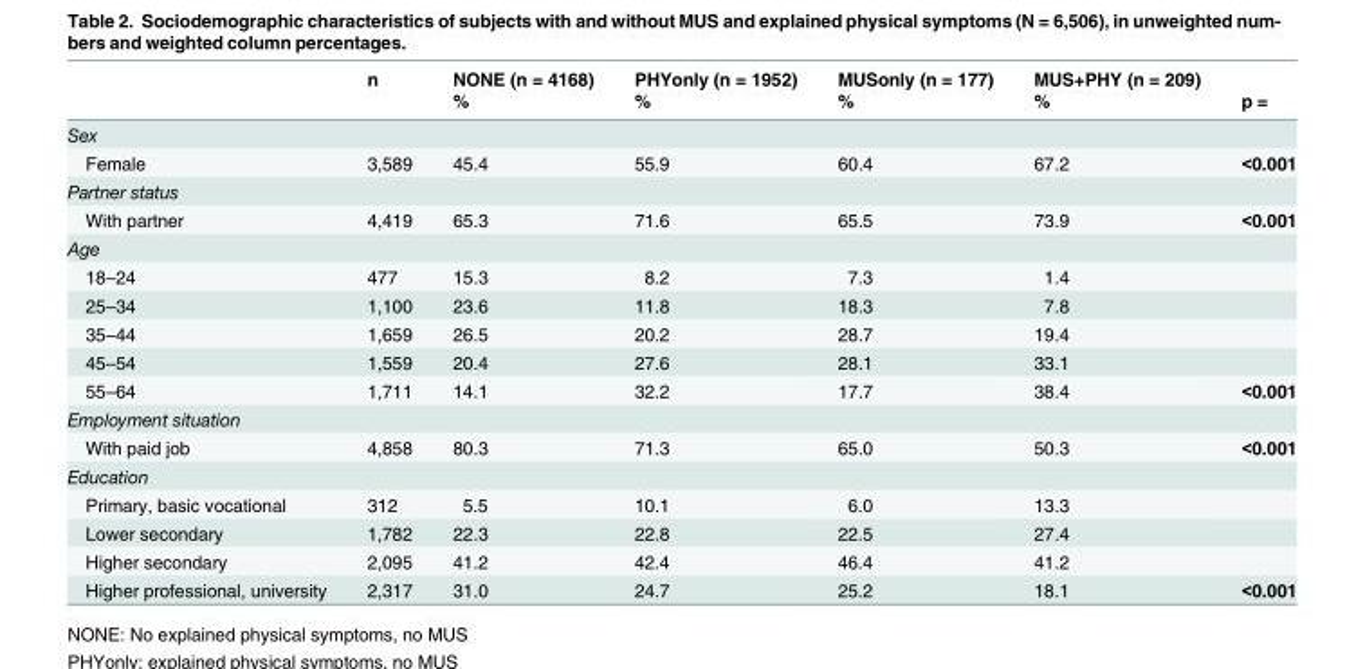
<table><thead><tr><td rowspan="2"></td><td rowspan="2">n</td><td rowspan="2">NONE (n = 4168) %</td><td rowspan="2">PHYonly (n = 1952) %</td><td rowspan="2">MUSonly (n = 177) %</td><td rowspan="2">MUS+PHY (n = 209) %</td><td rowspan="2">p =</td></tr><tr></tr></thead><tbody><tr><td colspan="7">Sex</td></tr><tr><td>Female</td><td>3,589</td><td>45.4</td><td>55.9</td><td>60.4</td><td>67.2</td><td>&lt;0.001</td></tr><tr><td colspan="7">Partner status</td></tr><tr><td>With partner</td><td>4,419</td><td>65.3</td><td>71.6</td><td>65.5</td><td>73.9</td><td>&lt;0.001</td></tr><tr><td colspan="7">Age</td></tr><tr><td>18–24</td><td>477</td><td>15.3</td><td>8.2</td><td>7.3</td><td>1.4</td><td></td></tr><tr><td>25–34</td><td>1,100</td><td>23.6</td><td>11.8</td><td>18.3</td><td>7.8</td><td></td></tr><tr><td>35–44</td><td>1,659</td><td>26.5</td><td>20.2</td><td>28.7</td><td>19.4</td><td></td></tr><tr><td>45–54</td><td>1,559</td><td>20.4</td><td>27.6</td><td>28.1</td><td>33.1</td><td></td></tr><tr><td>55–64</td><td>1,711</td><td>14.1</td><td>32.2</td><td>17.7</td><td>38.4</td><td>&lt;0.001</td></tr><tr><td colspan="7">Employment situation</td></tr><tr><td>With paid job</td><td>4,858</td><td>80.3</td><td>71.3</td><td>65.0</td><td>50.3</td><td>&lt;0.001</td></tr><tr><td colspan="7">Education</td></tr><tr><td>Primary, basic vocational</td><td>312</td><td>5.5</td><td>10.1</td><td>6.0</td><td>13.3</td><td></td></tr><tr><td>Lower secondary</td><td>1,782</td><td>22.3</td><td>22.8</td><td>22.5</td><td>27.4</td><td></td></tr><tr><td>Higher secondary</td><td>2,095</td><td>41.2</td><td>42.4</td><td>46.4</td><td>41.2</td><td></td></tr><tr><td>Higher professional, university</td><td>2,317</td><td>31.0</td><td>24.7</td><td>25.2</td><td>18.1</td><td>&lt;0.001</td></tr></tbody></table>